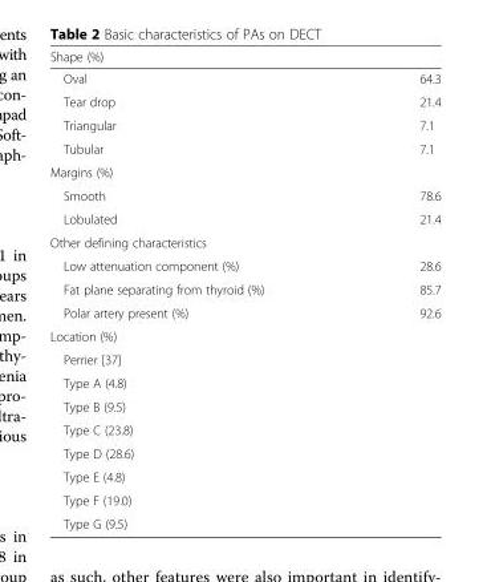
<table><thead><tr><td colspan="2">Shape (%)</td></tr><tr><td>Oval</td><td>64.3</td></tr></thead><tbody><tr><td>Tear drop</td><td>21.4</td></tr><tr><td>Triangular</td><td>7.1</td></tr><tr><td>Tubular</td><td>7.1</td></tr><tr><td colspan="2">Margins (%)</td></tr><tr><td>Smooth</td><td>78.6</td></tr><tr><td>Lobulated</td><td>21.4</td></tr><tr><td colspan="2">Other defining characteristics</td></tr><tr><td>Low attenuation component (%)</td><td>28.6</td></tr><tr><td>Fat plane separating from thyroid (%)</td><td>85.7</td></tr><tr><td>Polar artery present (%)</td><td>92.6</td></tr><tr><td colspan="2">Location (%)</td></tr><tr><td colspan="2">Perrier [37]</td></tr><tr><td colspan="2">Type A (4.8)</td></tr><tr><td colspan="2">Type B (9.5)</td></tr><tr><td colspan="2">Type C (23.8)</td></tr><tr><td colspan="2">Type D (28.6)</td></tr><tr><td colspan="2">Type E (4.8)</td></tr><tr><td colspan="2">Type F (19.0)</td></tr><tr><td colspan="2">Type G (9.5)</td></tr></tbody></table>